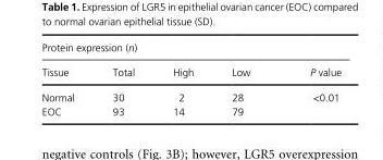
<table><thead><tr><td colspan="5">Protein expression (n)</td></tr><tr><td>Tissue</td><td>Total</td><td>High</td><td>Low</td><td>P value</td></tr></thead><tbody><tr><td>Normal</td><td>30</td><td>2</td><td>28</td><td>&lt;0.01</td></tr><tr><td>EOC</td><td>93</td><td>14</td><td>79</td><td></td></tr></tbody></table>